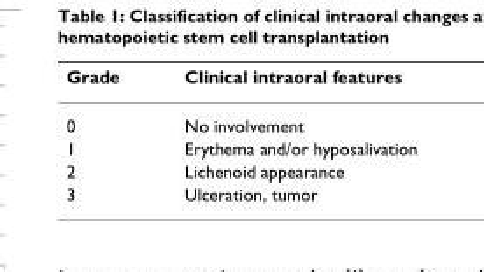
<table><thead><tr><td>Grade</td><td>Clinical intraoral features</td></tr></thead><tbody><tr><td>0</td><td>No involvement</td></tr><tr><td>1</td><td>Erythema and/or hyposalivation</td></tr><tr><td>2</td><td>Lichenoid appearance</td></tr><tr><td>3</td><td>Ulceration, tumor</td></tr></tbody></table>